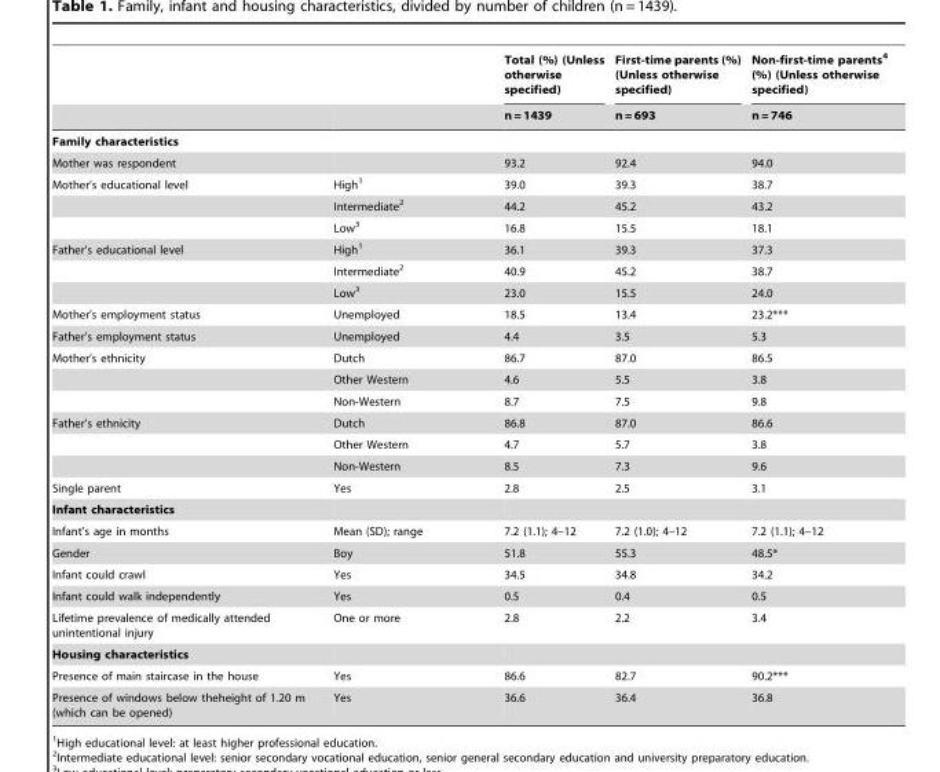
<table><thead><tr><td rowspan="2"></td><td rowspan="2"></td><td rowspan="2">Total (%) (Unless otherwise specified) n = 1439</td><td rowspan="2">First-time parents (%) (Unless otherwise specified) n = 693</td><td rowspan="2">Non-first-time parents<sup>4</sup> (%) (Unless otherwise specified) n = 746</td></tr><tr></tr></thead><tbody><tr><td colspan="5">Family characteristics</td></tr><tr><td>Mother was respondent</td><td></td><td>93.2</td><td>92.4</td><td>94.0</td></tr><tr><td rowspan="3">Mother’s educational level</td><td>High<sup>1</sup></td><td>39.0</td><td>39.3</td><td>38.7</td></tr><tr><td>Intermediate<sup>2</sup></td><td>44.2</td><td>45.2</td><td>43.2</td></tr><tr><td>Low<sup>3</sup></td><td>16.8</td><td>15.5</td><td>18.1</td></tr><tr><td rowspan="3">Father’s educational level</td><td>High<sup>1</sup></td><td>36.1</td><td>39.3</td><td>37.3</td></tr><tr><td>Intermediate<sup>2</sup></td><td>40.9</td><td>45.2</td><td>38.7</td></tr><tr><td>Low<sup>3</sup></td><td>23.0</td><td>15.5</td><td>24.0</td></tr><tr><td>Mother’s employment status</td><td>Unemployed</td><td>18.5</td><td>13.4</td><td>23.2***</td></tr><tr><td>Father’s employment status</td><td>Unemployed</td><td>4.4</td><td>3.5</td><td>5.3</td></tr><tr><td rowspan="3">Mother’s ethnicity</td><td>Dutch</td><td>86.7</td><td>87.0</td><td>86.5</td></tr><tr><td>Other Western</td><td>4.6</td><td>5.5</td><td>3.8</td></tr><tr><td>Non-Western</td><td>8.7</td><td>7.5</td><td>9.8</td></tr><tr><td rowspan="3">Father’s ethnicity</td><td>Dutch</td><td>86.8</td><td>87.0</td><td>86.6</td></tr><tr><td>Other Western</td><td>4.7</td><td>5.7</td><td>3.8</td></tr><tr><td>Non-Western</td><td>8.5</td><td>7.3</td><td>9.6</td></tr><tr><td>Single parent</td><td>Yes</td><td>2.8</td><td>2.5</td><td>3.1</td></tr><tr><td colspan="5">Infant characteristics</td></tr><tr><td>Infant’s age in months</td><td>Mean (SD); range</td><td>7.2 (1.1); 4–12</td><td>7.2 (1.0); 4–12</td><td>7.2 (1.1); 4–12</td></tr><tr><td>Gender</td><td>Boy</td><td>51.8</td><td>55.3</td><td>48.5*</td></tr><tr><td>Infant could crawl</td><td>Yes</td><td>34.5</td><td>34.8</td><td>34.2</td></tr><tr><td>Infant could walk independently</td><td>Yes</td><td>0.5</td><td>0.4</td><td>0.5</td></tr><tr><td>Lifetime prevalence of medically attended unintentional injury</td><td>One or more</td><td>2.8</td><td>2.2</td><td>3.4</td></tr><tr><td colspan="5">Housing characteristics</td></tr><tr><td>Presence of main staircase in the house</td><td>Yes</td><td>86.6</td><td>82.7</td><td>90.2***</td></tr><tr><td>Presence of windows below theheight of 1.20 m (which can be opened)</td><td>Yes</td><td>36.6</td><td>36.4</td><td>36.8</td></tr></tbody></table>